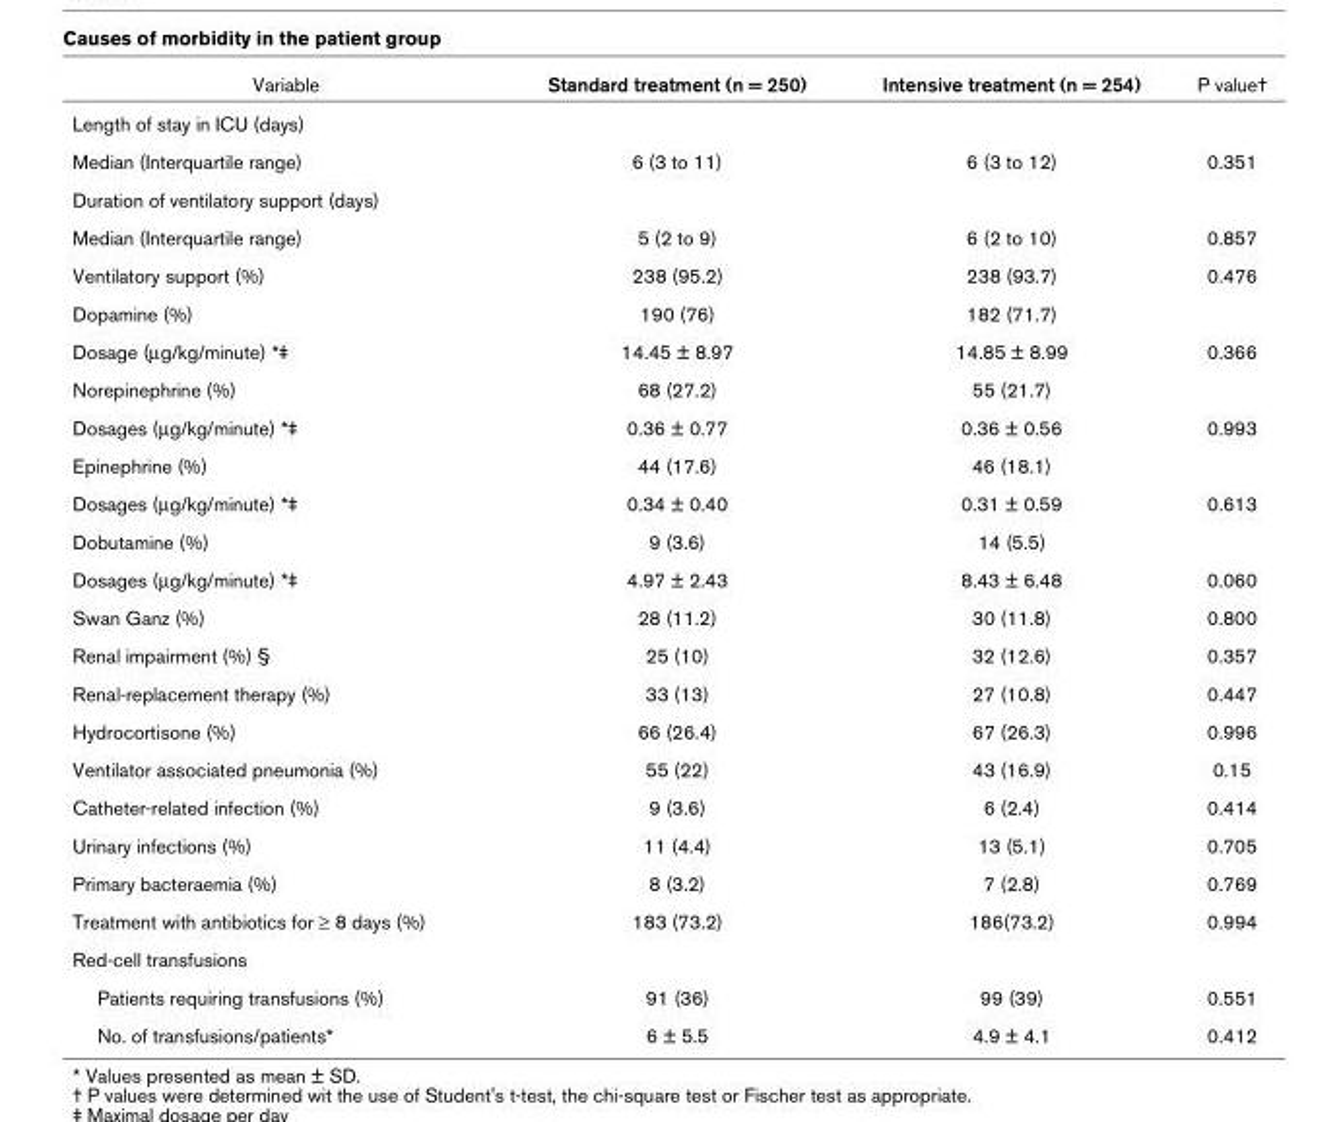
<table><thead><tr><td>Variable</td><td>Standard treatment (n = 250)</td><td>Intensive treatment (n = 254)</td><td>P value†</td></tr></thead><tbody><tr><td colspan="4">Length of stay in ICU (days)</td></tr><tr><td>Median (Interquartile range)</td><td>6 (3 to 11)</td><td>6 (3 to 12)</td><td>0.351</td></tr><tr><td colspan="4">Duration of ventilatory support (days)</td></tr><tr><td>Median (Interquartile range)</td><td>5 (2 to 9)</td><td>6 (2 to 10)</td><td>0.857</td></tr><tr><td>Ventilatory support (%)</td><td>238 (95.2)</td><td>238 (93.7)</td><td>0.476</td></tr><tr><td>Dopamine (%)</td><td>190 (76)</td><td>182 (71.7)</td><td></td></tr><tr><td>Dosage (μg/kg/minute) *‡</td><td>14.45 ± 8.97</td><td>14.85 ± 8.99</td><td>0.366</td></tr><tr><td>Norepinephrine (%)</td><td>68 (27.2)</td><td>55 (21.7)</td><td></td></tr><tr><td>Dosages (μg/kg/minute) *‡</td><td>0.36 ± 0.77</td><td>0.36 ± 0.56</td><td>0.993</td></tr><tr><td>Epinephrine (%)</td><td>44 (17.6)</td><td>46 (18.1)</td><td></td></tr><tr><td>Dosages (μg/kg/minute) *‡</td><td>0.34 ± 0.40</td><td>0.31 ± 0.59</td><td>0.613</td></tr><tr><td>Dobutamine (%)</td><td>9 (3.6)</td><td>14 (5.5)</td><td></td></tr><tr><td>Dosages (μg/kg/minute) *‡</td><td>4.97 ± 2.43</td><td>8.43 ± 6.48</td><td>0.060</td></tr><tr><td>Swan Ganz (%)</td><td>28 (11.2)</td><td>30 (11.8)</td><td>0.800</td></tr><tr><td>Renal impairment (%) §</td><td>25 (10)</td><td>32 (12.6)</td><td>0.357</td></tr><tr><td>Renal-replacement therapy (%)</td><td>33 (13)</td><td>27 (10.8)</td><td>0.447</td></tr><tr><td>Hydrocortisone (%)</td><td>66 (26.4)</td><td>67 (26.3)</td><td>0.996</td></tr><tr><td>Ventilator associated pneumonia (%)</td><td>55 (22)</td><td>43 (16.9)</td><td>0.15</td></tr><tr><td>Catheter-related infection (%)</td><td>9 (3.6)</td><td>6 (2.4)</td><td>0.414</td></tr><tr><td>Urinary infections (%)</td><td>11 (4.4)</td><td>13 (5.1)</td><td>0.705</td></tr><tr><td>Primary bacteraemia (%)</td><td>8 (3.2)</td><td>7 (2.8)</td><td>0.769</td></tr><tr><td>Treatment with antibiotics for ≥ 8 days (%)</td><td>183 (73.2)</td><td>186(73.2)</td><td>0.994</td></tr><tr><td colspan="4">Red-cell transfusions</td></tr><tr><td>Patients requiring transfusions (%)</td><td>91 (36)</td><td>99 (39)</td><td>0.551</td></tr><tr><td>No. of transfusions/patients*</td><td>6 ± 5.5</td><td>4.9 ± 4.1</td><td>0.412</td></tr></tbody></table>